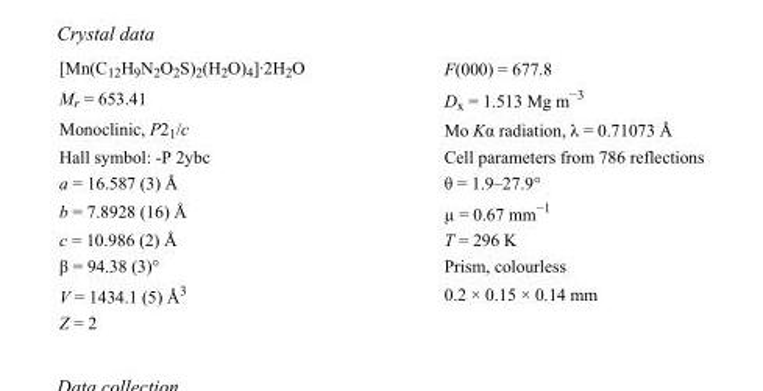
<table><tbody><tr><td>[Mn(C<sub>12</sub>H<sub>9</sub>N<sub>2</sub>O<sub>2</sub>S)<sub>2</sub>(H<sub>2</sub>O)<sub>4</sub>]·2H<sub>2</sub>O</td><td>F(000) = 677.8</td></tr><tr><td>M<sub>r</sub> = 653.41</td><td>D<sub>x</sub> = 1.513 Mg m<sup>−3</sup></td></tr><tr><td>Monoclinic, P2<sub>1</sub>/c</td><td>Mo Kα radiation, λ = 0.71073 Å</td></tr><tr><td>Hall symbol: -P 2ybc</td><td>Cell parameters from 786 reflections</td></tr><tr><td>a = 16.587 (3) Å</td><td>θ = 1.9–27.9°</td></tr><tr><td>b = 7.8928 (16) Å</td><td>µ = 0.67 mm<sup>−1</sup></td></tr><tr><td>c = 10.986 (2) Å</td><td>T = 296 K</td></tr><tr><td>β = 94.38 (3)°</td><td>Prism, colourless</td></tr><tr><td>V = 1434.1 (5) Å<sup>3</sup></td><td>0.2 × 0.15 × 0.14 mm</td></tr><tr><td>Z = 2</td><td></td></tr></tbody></table>